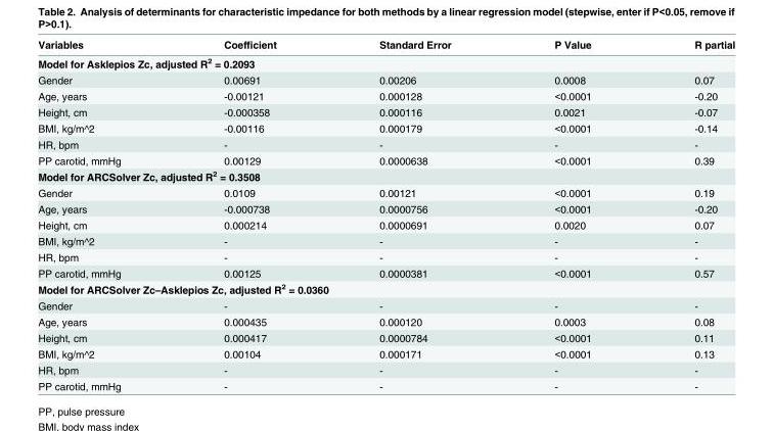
<table><thead><tr><td>Variables</td><td>Coefficient</td><td>Standard Error</td><td>P Value</td><td>R partial</td></tr></thead><tbody><tr><td colspan="5">Model for Asklepios Zc, adjusted R<sup>2</sup> = 0.2093</td></tr><tr><td>Gender</td><td>0.00691</td><td>0.00206</td><td>0.0008</td><td>0.07</td></tr><tr><td>Age, years</td><td>-0.00121</td><td>0.000128</td><td>&lt;0.0001</td><td>-0.20</td></tr><tr><td>Height, cm</td><td>-0.000358</td><td>0.000116</td><td>0.0021</td><td>-0.07</td></tr><tr><td>BMI, kg/m^2</td><td>-0.00116</td><td>0.000179</td><td>&lt;0.0001</td><td>-0.14</td></tr><tr><td>HR, bpm</td><td>-</td><td>-</td><td>-</td><td>-</td></tr><tr><td>PP carotid, mmHg</td><td>0.00129</td><td>0.0000638</td><td>&lt;0.0001</td><td>0.39</td></tr><tr><td colspan="5">Model for ARCSolver Zc, adjusted R<sup>2</sup> = 0.3508</td></tr><tr><td>Gender</td><td>0.0109</td><td>0.00121</td><td>&lt;0.0001</td><td>0.19</td></tr><tr><td>Age, years</td><td>-0.000738</td><td>0.0000756</td><td>&lt;0.0001</td><td>-0.20</td></tr><tr><td>Height, cm</td><td>0.000214</td><td>0.0000691</td><td>0.0020</td><td>0.07</td></tr><tr><td>BMI, kg/m^2</td><td>-</td><td>-</td><td>-</td><td>-</td></tr><tr><td>HR, bpm</td><td>-</td><td>-</td><td>-</td><td>-</td></tr><tr><td>PP carotid, mmHg</td><td>0.00125</td><td>0.0000381</td><td>&lt;0.0001</td><td>0.57</td></tr><tr><td colspan="5">Model for ARCSolver Zc–Asklepios Zc, adjusted R<sup>2</sup> = 0.0360</td></tr><tr><td>Gender</td><td>-</td><td>-</td><td>-</td><td>-</td></tr><tr><td>Age, years</td><td>0.000435</td><td>0.000120</td><td>0.0003</td><td>0.08</td></tr><tr><td>Height, cm</td><td>0.000417</td><td>0.0000784</td><td>&lt;0.0001</td><td>0.11</td></tr><tr><td>BMI, kg/m^2</td><td>0.00104</td><td>0.000171</td><td>&lt;0.0001</td><td>0.13</td></tr><tr><td>HR, bpm</td><td>-</td><td>-</td><td>-</td><td>-</td></tr><tr><td>PP carotid, mmHg</td><td>-</td><td>-</td><td>-</td><td>-</td></tr></tbody></table>